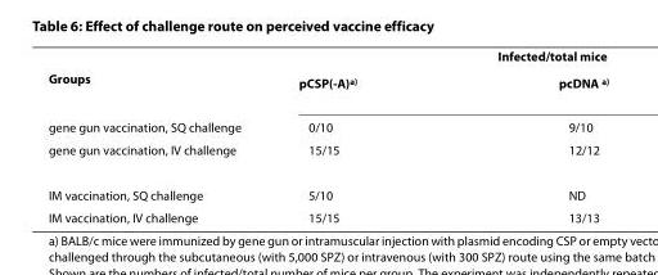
<table><thead><tr><td rowspan="2">Groups</td><td colspan="2">Infected/total mice</td></tr><tr><td>pCSP(-A)<sup>a)</sup></td><td>pcDNA <sup>a)</sup></td></tr></thead><tbody><tr><td>gene gun vaccination, SQ challenge</td><td>0/10</td><td>9/10</td></tr><tr><td>gene gun vaccination, IV challenge</td><td>15/15</td><td>12/12</td></tr><tr><td>IM vaccination, SQ challenge</td><td>5/10</td><td>ND</td></tr><tr><td>IM vaccination, IV challenge</td><td>15/15</td><td>13/13</td></tr></tbody></table>